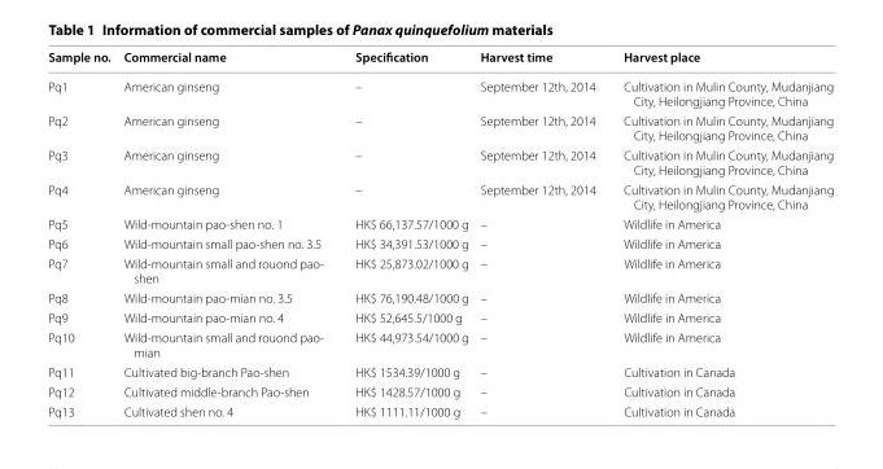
<table><thead><tr><td>Sample no.</td><td>Commercial name</td><td>Specification</td><td>Harvest time</td><td>Harvest place</td></tr></thead><tbody><tr><td>Pq1</td><td>American ginseng</td><td>–</td><td>September 12th, 2014</td><td>Cultivation in Mulin County, Mudanjiang City, Heilongjiang Province, China</td></tr><tr><td>Pq2</td><td>American ginseng</td><td>–</td><td>September 12th, 2014</td><td>Cultivation in Mulin County, Mudanjiang City, Heilongjiang Province, China</td></tr><tr><td>Pq3</td><td>American ginseng</td><td>–</td><td>September 12th, 2014</td><td>Cultivation in Mulin County, Mudanjiang City, Heilongjiang Province, China</td></tr><tr><td>Pq4</td><td>American ginseng</td><td>–</td><td>September 12th, 2014</td><td>Cultivation in Mulin County, Mudanjiang City, Heilongjiang Province, China</td></tr><tr><td>Pq5</td><td>Wild-mountain pao-shen no. 1</td><td>HK$ 66,137.57/1000 g</td><td>–</td><td>Wildlife in America</td></tr><tr><td>Pq6</td><td>Wild-mountain small pao-shen no. 3.5</td><td>HK$ 34,391.53/1000 g</td><td>–</td><td>Wildlife in America</td></tr><tr><td>Pq7</td><td>Wild-mountain small and rouond pao- shen</td><td>HK$ 25,873.02/1000 g</td><td>–</td><td>Wildlife in America</td></tr><tr><td>Pq8</td><td>Wild-mountain pao-mian no. 3.5</td><td>HK$ 76,190.48/1000 g</td><td>–</td><td>Wildlife in America</td></tr><tr><td>Pq9</td><td>Wild-mountain pao-mian no. 4</td><td>HK$ 52,645.5/1000 g</td><td>–</td><td>Wildlife in America</td></tr><tr><td>Pq10</td><td>Wild-mountain small and rouond pao- mian</td><td>HK$ 44,973.54/1000 g</td><td>–</td><td>Wildlife in America</td></tr><tr><td>Pq11</td><td>Cultivated big-branch Pao-shen</td><td>HK$ 1534.39/1000 g</td><td>–</td><td>Cultivation in Canada</td></tr><tr><td>Pq12</td><td>Cultivated middle-branch Pao-shen</td><td>HK$ 1428.57/1000 g</td><td>–</td><td>Cultivation in Canada</td></tr><tr><td>Pq13</td><td>Cultivated shen no. 4</td><td>HK$ 1111.11/1000 g</td><td>–</td><td>Cultivation in Canada</td></tr></tbody></table>